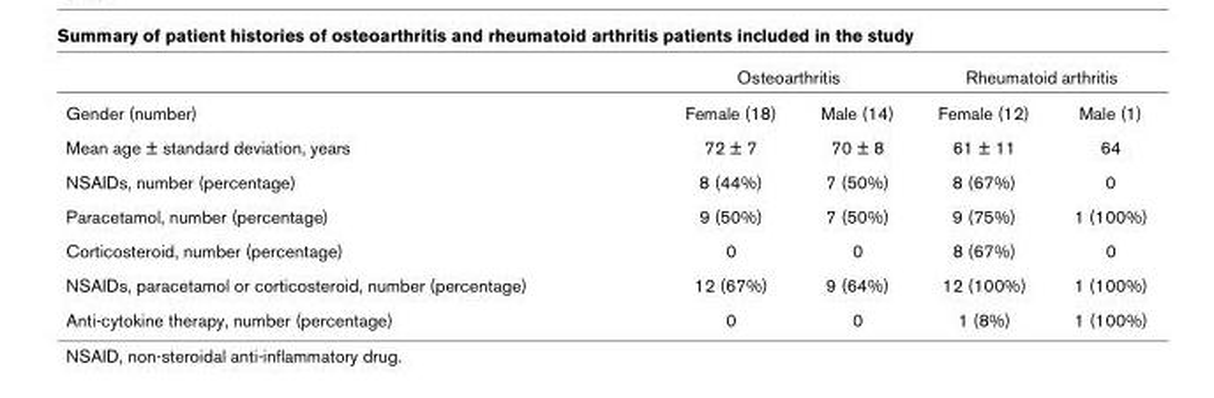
<table><thead><tr><td rowspan="2">Gender (number)</td><td colspan="2">Osteoarthritis</td><td colspan="2">Rheumatoid arthritis</td></tr><tr><td>Female (18)</td><td>Male (14)</td><td>Female (12)</td><td>Male (1)</td></tr></thead><tbody><tr><td>Mean age ± standard deviation, years</td><td>72 ± 7</td><td>70 ± 8</td><td>61 ± 11</td><td>64</td></tr><tr><td>NSAIDs, number (percentage)</td><td>8 (44%)</td><td>7 (50%)</td><td>8 (67%)</td><td>0</td></tr><tr><td>Paracetamol, number (percentage)</td><td>9 (50%)</td><td>7 (50%)</td><td>9 (75%)</td><td>1 (100%)</td></tr><tr><td>Corticosteroid, number (percentage)</td><td>0</td><td>0</td><td>8 (67%)</td><td>0</td></tr><tr><td>NSAIDs, paracetamol or corticosteroid, number (percentage)</td><td>12 (67%)</td><td>9 (64%)</td><td>12 (100%)</td><td>1 (100%)</td></tr><tr><td>Anti-cytokine therapy, number (percentage)</td><td>0</td><td>0</td><td>1 (8%)</td><td>1 (100%)</td></tr></tbody></table>